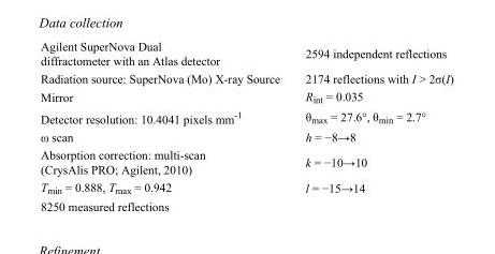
<table><tbody><tr><td>Agilent SuperNova Dual diffractometer with an Atlas detector</td><td>2594 independent reflections</td></tr><tr><td>Radiation source: SuperNova (Mo) X-ray Source</td><td>2174 reflections with I &gt; 2σ(I)</td></tr><tr><td>Mirror</td><td>R<sub>int</sub> = 0.035</td></tr><tr><td>Detector resolution: 10.4041 pixels mm<sup>-1</sup></td><td>θ<sub>max</sub> = 27.6°, θ<sub>min</sub> = 2.7°</td></tr><tr><td>ω scan</td><td>h = −8→8</td></tr><tr><td>Absorption correction: multi-scan (CrysAlis PRO; Agilent, 2010)</td><td>k = −10→10</td></tr><tr><td>T<sub>min</sub> = 0.888, T<sub>max</sub> = 0.942</td><td>l = −15→14</td></tr><tr><td>8250 measured reflections</td><td></td></tr></tbody></table>